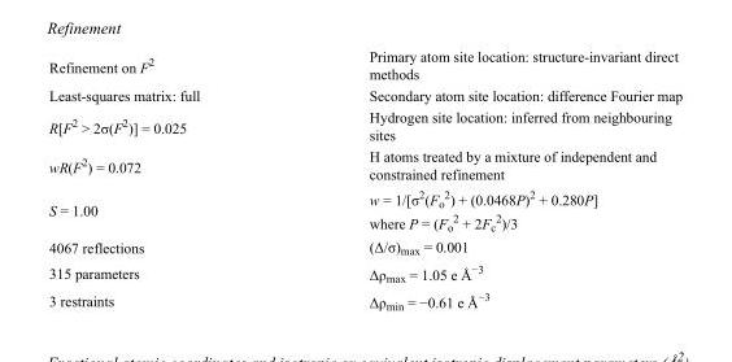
<table><tbody><tr><td>Refinement on F<sup>2</sup></td><td>Primary atom site location: structure-invariant direct methods</td></tr><tr><td>Least-squares matrix: full</td><td>Secondary atom site location: difference Fourier map</td></tr><tr><td>R[F<sup>2</sup> &gt; 2σ(F<sup>2</sup>)] = 0.025</td><td>Hydrogen site location: inferred from neighbouring sites</td></tr><tr><td>wR(F<sup>2</sup>) = 0.072</td><td>H atoms treated by a mixture of independent and constrained refinement</td></tr><tr><td>S = 1.00</td><td>w = 1/[σ<sup>2</sup>(F<sub>o</sub> <sup>2</sup>) + (0.0468P)<sup>2</sup> + 0.280P] where P = (F<sub>o</sub> <sup>2</sup> + 2F<sub>c</sub> <sup>2</sup>)/3</td></tr><tr><td>4067 reflections</td><td>(Δ/σ)<sub>max</sub> = 0.001</td></tr><tr><td>315 parameters</td><td>Δρ<sub>max</sub> = 1.05 e Å<sup>−3</sup></td></tr><tr><td>3 restraints</td><td>Δρ<sub>min</sub> = −0.61 e Å<sup>−3</sup></td></tr></tbody></table>